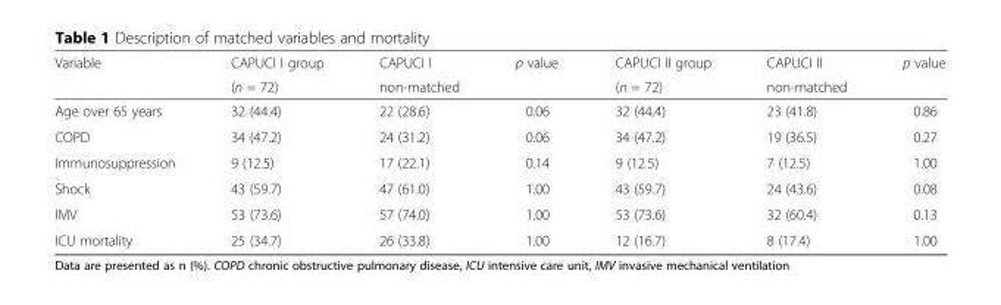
<table><thead><tr><td rowspan="2">Variable</td><td rowspan="2">CAPUCI I group (n = 72)</td><td rowspan="2">CAPUCI I non-matched</td><td rowspan="2">p value</td><td rowspan="2">CAPUCI II group (n = 72)</td><td rowspan="2">CAPUCI II non-matched</td><td rowspan="2">p value</td></tr><tr></tr></thead><tbody><tr><td>Age over 65 years</td><td>32 (44.4)</td><td>22 (28.6)</td><td>0.06</td><td>32 (44.4)</td><td>23 (41.8)</td><td>0.86</td></tr><tr><td>COPD</td><td>34 (47.2)</td><td>24 (31.2)</td><td>0.06</td><td>34 (47.2)</td><td>19 (36.5)</td><td>0.27</td></tr><tr><td>Immunosuppression</td><td>9 (12.5)</td><td>17 (22.1)</td><td>0.14</td><td>9 (12.5)</td><td>7 (12.5)</td><td>1.00</td></tr><tr><td>Shock</td><td>43 (59.7)</td><td>47 (61.0)</td><td>1.00</td><td>43 (59.7)</td><td>24 (43.6)</td><td>0.08</td></tr><tr><td>IMV</td><td>53 (73.6)</td><td>57 (74.0)</td><td>1.00</td><td>53 (73.6)</td><td>32 (60.4)</td><td>0.13</td></tr><tr><td>ICU mortality</td><td>25 (34.7)</td><td>26 (33.8)</td><td>1.00</td><td>12 (16.7)</td><td>8 (17.4)</td><td>1.00</td></tr></tbody></table>